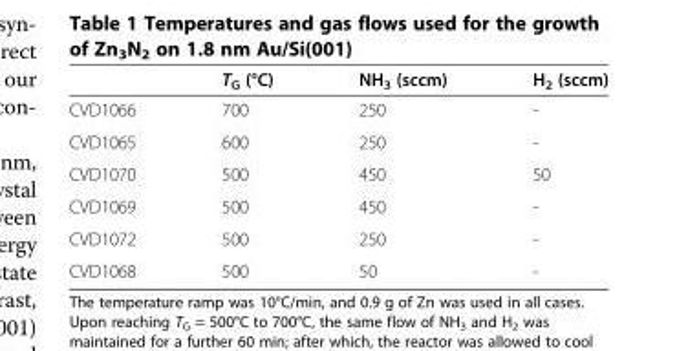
<table><thead><tr><td></td><td>T<sub>G</sub> (°C)</td><td>NH<sub>3</sub> (sccm)</td><td>H<sub>2</sub> (sccm)</td></tr></thead><tbody><tr><td>CVD1066</td><td>700</td><td>250</td><td>-</td></tr><tr><td>CVD1065</td><td>600</td><td>250</td><td>-</td></tr><tr><td>CVD1070</td><td>500</td><td>450</td><td>50</td></tr><tr><td>CVD1069</td><td>500</td><td>450</td><td>-</td></tr><tr><td>CVD1072</td><td>500</td><td>250</td><td>-</td></tr><tr><td>CVD1068</td><td>500</td><td>50</td><td>-</td></tr></tbody></table>